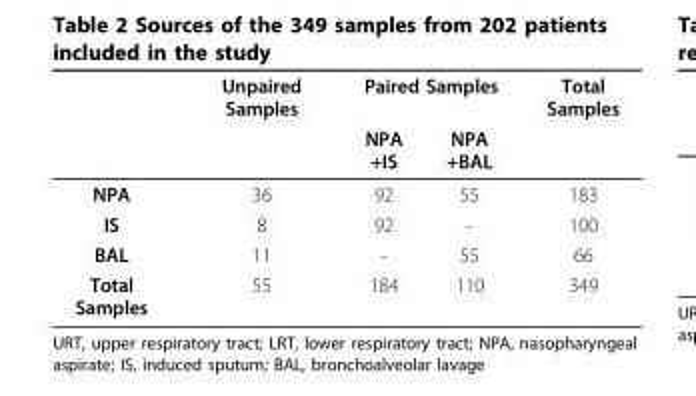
<table><thead><tr><td rowspan="2"></td><td rowspan="2">Unpaired Samples</td><td colspan="2">Paired Samples</td><td rowspan="2">Total Samples</td></tr><tr><td>NPA +IS</td><td>NPA +BAL</td></tr></thead><tbody><tr><td>NPA</td><td>36</td><td>92</td><td>55</td><td>183</td></tr><tr><td>IS</td><td>8</td><td>92</td><td>-</td><td>100</td></tr><tr><td>BAL</td><td>11</td><td>-</td><td>55</td><td>66</td></tr><tr><td>Total Samples</td><td>55</td><td>184</td><td>110</td><td>349</td></tr></tbody></table>